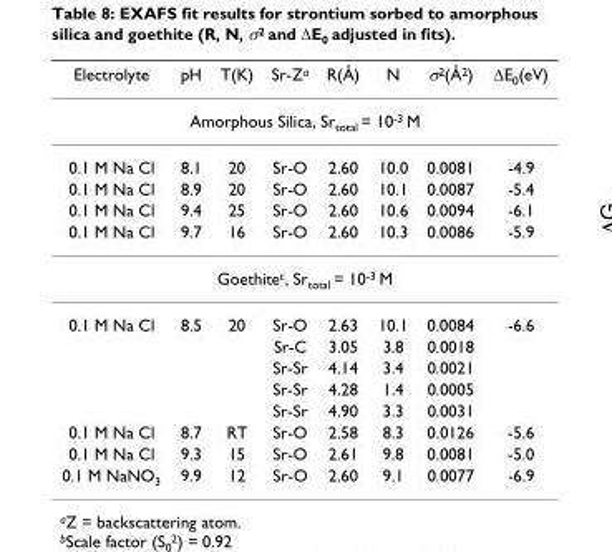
<table><thead><tr><td>Electrolyte</td><td>pH</td><td>T(K)</td><td>Sr-Z<sup>a</sup></td><td>R(Å)</td><td>N</td><td>σ<sup>2</sup>(Å<sup>2</sup>)</td><td>ΔE<sub>0</sub>(eV)</td></tr></thead><tbody><tr><td colspan="8">Amorphous Silica, Sr<sub>total</sub> = 10<sup>-3</sup> M</td></tr><tr><td>0.1 M Na Cl</td><td>8.1</td><td>20</td><td>Sr-O</td><td>2.60</td><td>10.0</td><td>0.0081</td><td>-4.9</td></tr><tr><td>0.1 M Na Cl</td><td>8.9</td><td>20</td><td>Sr-O</td><td>2.60</td><td>10.1</td><td>0.0087</td><td>-5.4</td></tr><tr><td>0.1 M Na Cl</td><td>9.4</td><td>25</td><td>Sr-O</td><td>2.60</td><td>10.6</td><td>0.0094</td><td>-6.1</td></tr><tr><td>0.1 M Na Cl</td><td>9.7</td><td>16</td><td>Sr-O</td><td>2.60</td><td>10.3</td><td>0.0086</td><td>-5.9</td></tr><tr><td colspan="8">Goethite<sup>c</sup>, Sr<sub>total</sub> = 10<sup>-3</sup> M</td></tr><tr><td rowspan="5">0.1 M Na Cl</td><td>8.5</td><td>20</td><td>Sr-O</td><td>2.63</td><td>10.1</td><td>0.0084</td><td>-6.6</td></tr><tr><td></td><td></td><td>Sr-C</td><td>3.05</td><td>3.8</td><td>0.0018</td><td></td></tr><tr><td></td><td></td><td>Sr-Sr</td><td>4.14</td><td>3.4</td><td>0.0021</td><td></td></tr><tr><td></td><td></td><td>Sr-Sr</td><td>4.28</td><td>1.4</td><td>0.0005</td><td></td></tr><tr><td></td><td></td><td>Sr-Sr</td><td>4.90</td><td>3.3</td><td>0.0031</td><td></td></tr><tr><td>0.1 M Na Cl</td><td>8.7</td><td>RT</td><td>Sr-O</td><td>2.58</td><td>8.3</td><td>0.0126</td><td>-5.6</td></tr><tr><td>0.1 M Na Cl</td><td>9.3</td><td>15</td><td>Sr-O</td><td>2.61</td><td>9.8</td><td>0.0081</td><td>-5.0</td></tr><tr><td>0.1 M NaNO<sub>3</sub></td><td>9.9</td><td>12</td><td>Sr-O</td><td>2.60</td><td>9.1</td><td>0.0077</td><td>-6.9</td></tr></tbody></table>